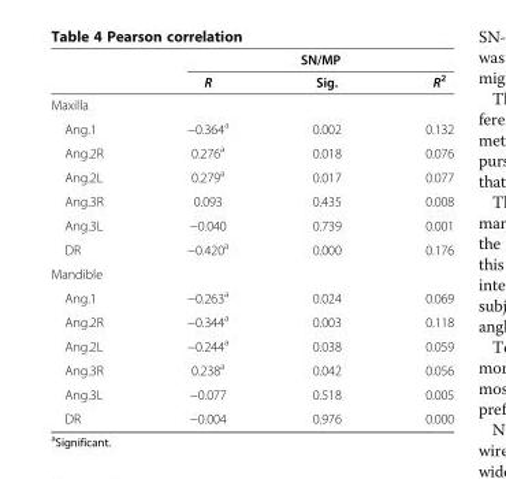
<table><thead><tr><td rowspan="2"></td><td colspan="3">SN/MP</td></tr><tr><td>R</td><td>Sig.</td><td>R<sup>2</sup></td></tr></thead><tbody><tr><td colspan="4">Maxilla</td></tr><tr><td>Ang.1</td><td>−0.364<sup>a</sup></td><td>0.002</td><td>0.132</td></tr><tr><td>Ang.2R</td><td>0.276<sup>a</sup></td><td>0.018</td><td>0.076</td></tr><tr><td>Ang.2L</td><td>0.279<sup>a</sup></td><td>0.017</td><td>0.077</td></tr><tr><td>Ang.3R</td><td>0.093</td><td>0.435</td><td>0.008</td></tr><tr><td>Ang.3L</td><td>−0.040</td><td>0.739</td><td>0.001</td></tr><tr><td>DR</td><td>−0.420<sup>a</sup></td><td>0.000</td><td>0.176</td></tr><tr><td colspan="4">Mandible</td></tr><tr><td>Ang.1</td><td>−0.263<sup>a</sup></td><td>0.024</td><td>0.069</td></tr><tr><td>Ang.2R</td><td>−0.344<sup>a</sup></td><td>0.003</td><td>0.118</td></tr><tr><td>Ang.2L</td><td>−0.244<sup>a</sup></td><td>0.038</td><td>0.059</td></tr><tr><td>Ang.3R</td><td>0.238<sup>a</sup></td><td>0.042</td><td>0.056</td></tr><tr><td>Ang.3L</td><td>−0.077</td><td>0.518</td><td>0.005</td></tr><tr><td>DR</td><td>−0.004</td><td>0.976</td><td>0.000</td></tr></tbody></table>